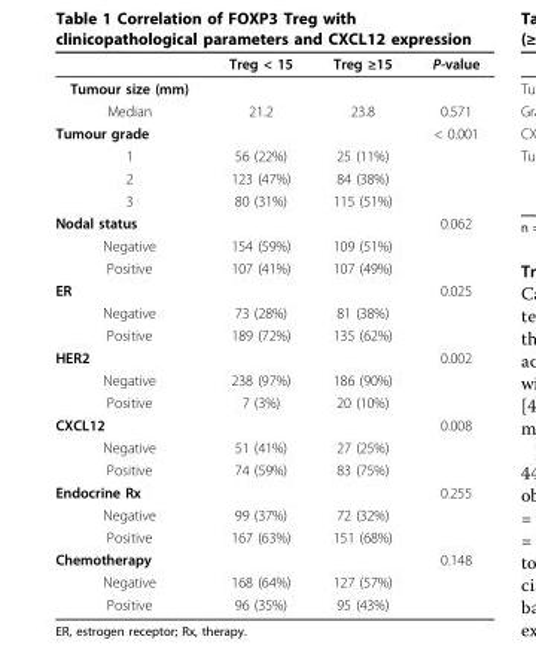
<table><thead><tr><td></td><td>Treg &lt; 15</td><td>Treg ≥15</td><td>P-value</td></tr></thead><tbody><tr><td colspan="4">Tumour size (mm)</td></tr><tr><td>Median</td><td>21.2</td><td>23.8</td><td>0.571</td></tr><tr><td>Tumour grade</td><td></td><td></td><td>&lt; 0.001</td></tr><tr><td>1</td><td>56 (22%)</td><td>25 (11%)</td><td></td></tr><tr><td>2</td><td>123 (47%)</td><td>84 (38%)</td><td></td></tr><tr><td>3</td><td>80 (31%)</td><td>115 (51%)</td><td></td></tr><tr><td>Nodal status</td><td></td><td></td><td>0.062</td></tr><tr><td>Negative</td><td>154 (59%)</td><td>109 (51%)</td><td></td></tr><tr><td>Positive</td><td>107 (41%)</td><td>107 (49%)</td><td></td></tr><tr><td>ER</td><td></td><td></td><td>0.025</td></tr><tr><td>Negative</td><td>73 (28%)</td><td>81 (38%)</td><td></td></tr><tr><td>Positive</td><td>189 (72%)</td><td>135 (62%)</td><td></td></tr><tr><td>HER2</td><td></td><td></td><td>0.002</td></tr><tr><td>Negative</td><td>238 (97%)</td><td>186 (90%)</td><td></td></tr><tr><td>Positive</td><td>7 (3%)</td><td>20 (10%)</td><td></td></tr><tr><td>CXCL12</td><td></td><td></td><td>0.008</td></tr><tr><td>Negative</td><td>51 (41%)</td><td>27 (25%)</td><td></td></tr><tr><td>Positive</td><td>74 (59%)</td><td>83 (75%)</td><td></td></tr><tr><td>Endocrine Rx</td><td></td><td></td><td>0.255</td></tr><tr><td>Negative</td><td>99 (37%)</td><td>72 (32%)</td><td></td></tr><tr><td>Positive</td><td>167 (63%)</td><td>151 (68%)</td><td></td></tr><tr><td>Chemotherapy</td><td></td><td></td><td>0.148</td></tr><tr><td>Negative</td><td>168 (64%)</td><td>127 (57%)</td><td></td></tr><tr><td>Positive</td><td>96 (35%)</td><td>95 (43%)</td><td></td></tr></tbody></table>